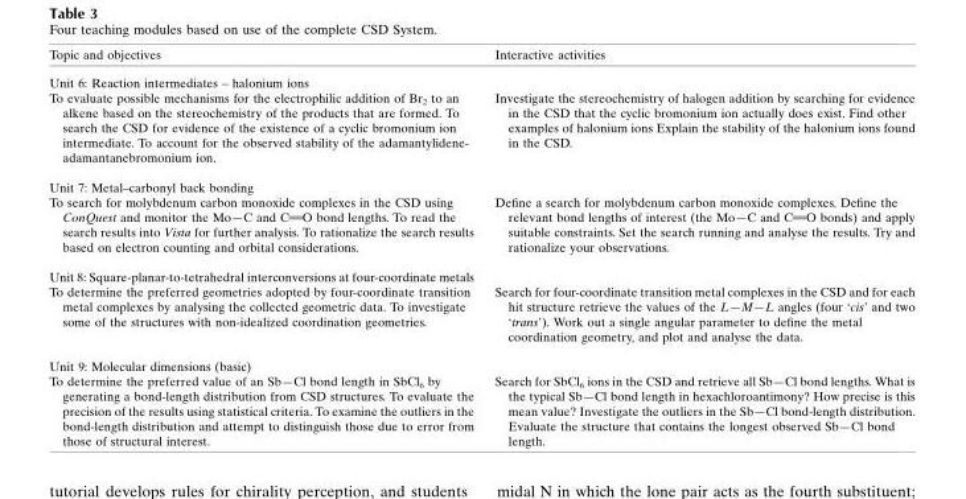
<table><thead><tr><td>Topic and objectives</td><td>Interactive activities</td></tr></thead><tbody><tr><td colspan="2">Unit 6: Reaction intermediates – halonium ions</td></tr><tr><td>To evaluate possible mechanisms for the electrophilic addition of Br2 to an alkene based on the stereochemistry of the products that are formed. To search the CSD for evidence of the existence of a cyclic bromonium ion intermediate. To account for the observed stability of the adamantylidene- adamantanebromonium ion.</td><td>Investigate the stereochemistry of halogen addition by searching for evidence in the CSD that the cyclic bromonium ion actually does exist. Find other examples of halonium ions Explain the stability of the halonium ions found in the CSD.</td></tr><tr><td colspan="2">Unit 7: Metal–carbonyl back bonding</td></tr><tr><td>To search for molybdenum carbon monoxide complexes in the CSD using ConQuest and monitor the Mo—C and C O bond lengths. To read the search results into Vista for further analysis. To rationalize the search results based on electron counting and orbital considerations.</td><td>Define a search for molybdenum carbon monoxide complexes. Define the relevant bond lengths of interest (the Mo—C and C O bonds) and apply suitable constraints. Set the search running and analyse the results. Try and rationalize your observations.</td></tr><tr><td colspan="2">Unit 8: Square-planar-to-tetrahedral interconversions at four-coordinate metals</td></tr><tr><td>To determine the preferred geometries adopted by four-coordinate transition metal complexes by analysing the collected geometric data. To investigate some of the structures with non-idealized coordination geometries.</td><td>Search for four-coordinate transition metal complexes in the CSD and for each hit structure retrieve the values of the L—M—L angles (four ‘cis’ and two ‘trans’). Work out a single angular parameter to define the metal coordination geometry, and plot and analyse the data.</td></tr><tr><td colspan="2">Unit 9: Molecular dimensions (basic)</td></tr><tr><td>To determine the preferred value of an Sb—Cl bond length in SbCl6 by generating a bond-length distribution from CSD structures. To evaluate the precision of the results using statistical criteria. To examine the outliers in the bond-length distribution and attempt to distinguish those due to error from those of structural interest.</td><td>Search for SbCl6 ions in the CSD and retrieve all Sb—Cl bond lengths. What is the typical Sb—Cl bond length in hexachloroantimony? How precise is this mean value? Investigate the outliers in the Sb—Cl bond-length distribution. Evaluate the structure that contains the longest observed Sb—Cl bond length.</td></tr></tbody></table>